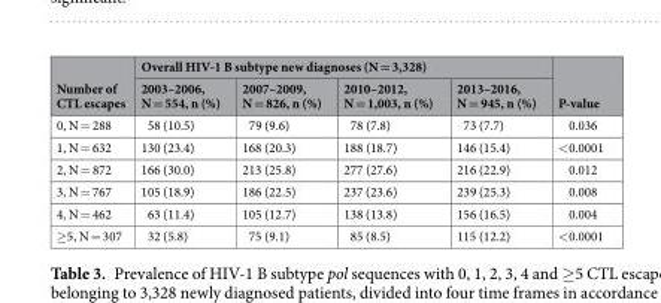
<table><thead><tr><td rowspan="2">Number of CTL escapes</td><td colspan="4">Overall HIV-1 B subtype new diagnoses (N = 3,328)</td><td rowspan="2">P-value</td></tr><tr><td>2003–2006, N = 554, n (%)</td><td>2007–2009, N = 826, n (%)</td><td>2010–2012, N = 1,003, n (%)</td><td>2013–2016, N = 945, n (%)</td></tr></thead><tbody><tr><td>0, N = 288</td><td>58 (10.5)</td><td>79 (9.6)</td><td>78 (7.8)</td><td>73 (7.7)</td><td>0.036</td></tr><tr><td>1, N = 632</td><td>130 (23.4)</td><td>168 (20.3)</td><td>188 (18.7)</td><td>146 (15.4)</td><td>&lt;0.0001</td></tr><tr><td>2, N = 872</td><td>166 (30.0)</td><td>213 (25.8)</td><td>277 (27.6)</td><td>216 (22.9)</td><td>0.012</td></tr><tr><td>3, N = 767</td><td>105 (18.9)</td><td>186 (22.5)</td><td>237 (23.6)</td><td>239 (25.3)</td><td>0.008</td></tr><tr><td>4, N = 462</td><td>63 (11.4)</td><td>105 (12.7)</td><td>138 (13.8)</td><td>156 (16.5)</td><td>0.004</td></tr><tr><td>≥5, N = 307</td><td>32 (5.8)</td><td>75 (9.1)</td><td>85 (8.5)</td><td>115 (12.2)</td><td>&lt;0.0001</td></tr></tbody></table>